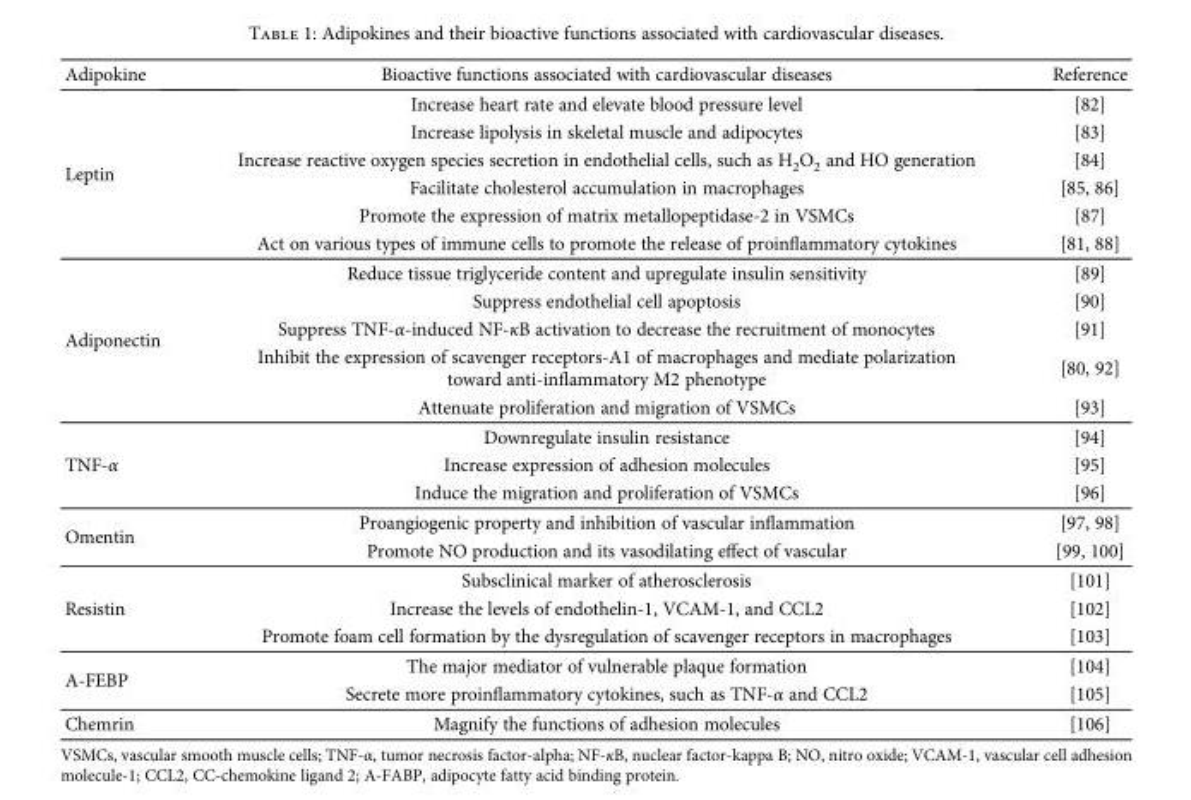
<table><thead><tr><td>Adipokine</td><td>Bioactive functions associated with cardiovascular diseases</td><td>Reference</td></tr></thead><tbody><tr><td rowspan="6">Leptin</td><td>Increase heart rate and elevate blood pressure level</td><td>[82]</td></tr><tr><td>Increase lipolysis in skeletal muscle and adipocytes</td><td>[83]</td></tr><tr><td>Increase reactive oxygen species secretion in endothelial cells, such as H<sub>2</sub>O<sub>2</sub> and HO generation</td><td>[84]</td></tr><tr><td>Facilitate cholesterol accumulation in macrophages</td><td>[85, 86]</td></tr><tr><td>Promote the expression of matrix metallopeptidase-2 in VSMCs</td><td>[87]</td></tr><tr><td>Act on various types of immune cells to promote the release of proinflammatory cytokines</td><td>[81, 88]</td></tr><tr><td rowspan="5">Adiponectin</td><td>Reduce tissue triglyceride content and upregulate insulin sensitivity</td><td>[89]</td></tr><tr><td>Suppress endothelial cell apoptosis</td><td>[90]</td></tr><tr><td>Suppress TNF-α-induced NF-κB activation to decrease the recruitment of monocytes</td><td>[91]</td></tr><tr><td>Inhibit the expression of scavenger receptors-A1 of macrophages and mediate polarization toward anti-inflammatory M2 phenotype</td><td>[80, 92]</td></tr><tr><td>Attenuate proliferation and migration of VSMCs</td><td>[93]</td></tr><tr><td rowspan="3">TNF-α</td><td>Downregulate insulin resistance</td><td>[94]</td></tr><tr><td>Increase expression of adhesion molecules</td><td>[95]</td></tr><tr><td>Induce the migration and proliferation of VSMCs</td><td>[96]</td></tr><tr><td rowspan="2">Omentin</td><td>Proangiogenic property and inhibition of vascular inflammation</td><td>[97, 98]</td></tr><tr><td>Promote NO production and its vasodilating effect of vascular</td><td>[99, 100]</td></tr><tr><td rowspan="3">Resistin</td><td>Subsclinical marker of atherosclerosis</td><td>[101]</td></tr><tr><td>Increase the levels of endothelin-1, VCAM-1, and CCL2</td><td>[102]</td></tr><tr><td>Promote foam cell formation by the dysregulation of scavenger receptors in macrophages</td><td>[103]</td></tr><tr><td rowspan="2">A-FEBP</td><td>The major mediator of vulnerable plaque formation</td><td>[104]</td></tr><tr><td>Secrete more proinflammatory cytokines, such as TNF-α and CCL2</td><td>[105]</td></tr><tr><td>Chemrin</td><td>Magnify the functions of adhesion molecules</td><td>[106]</td></tr></tbody></table>